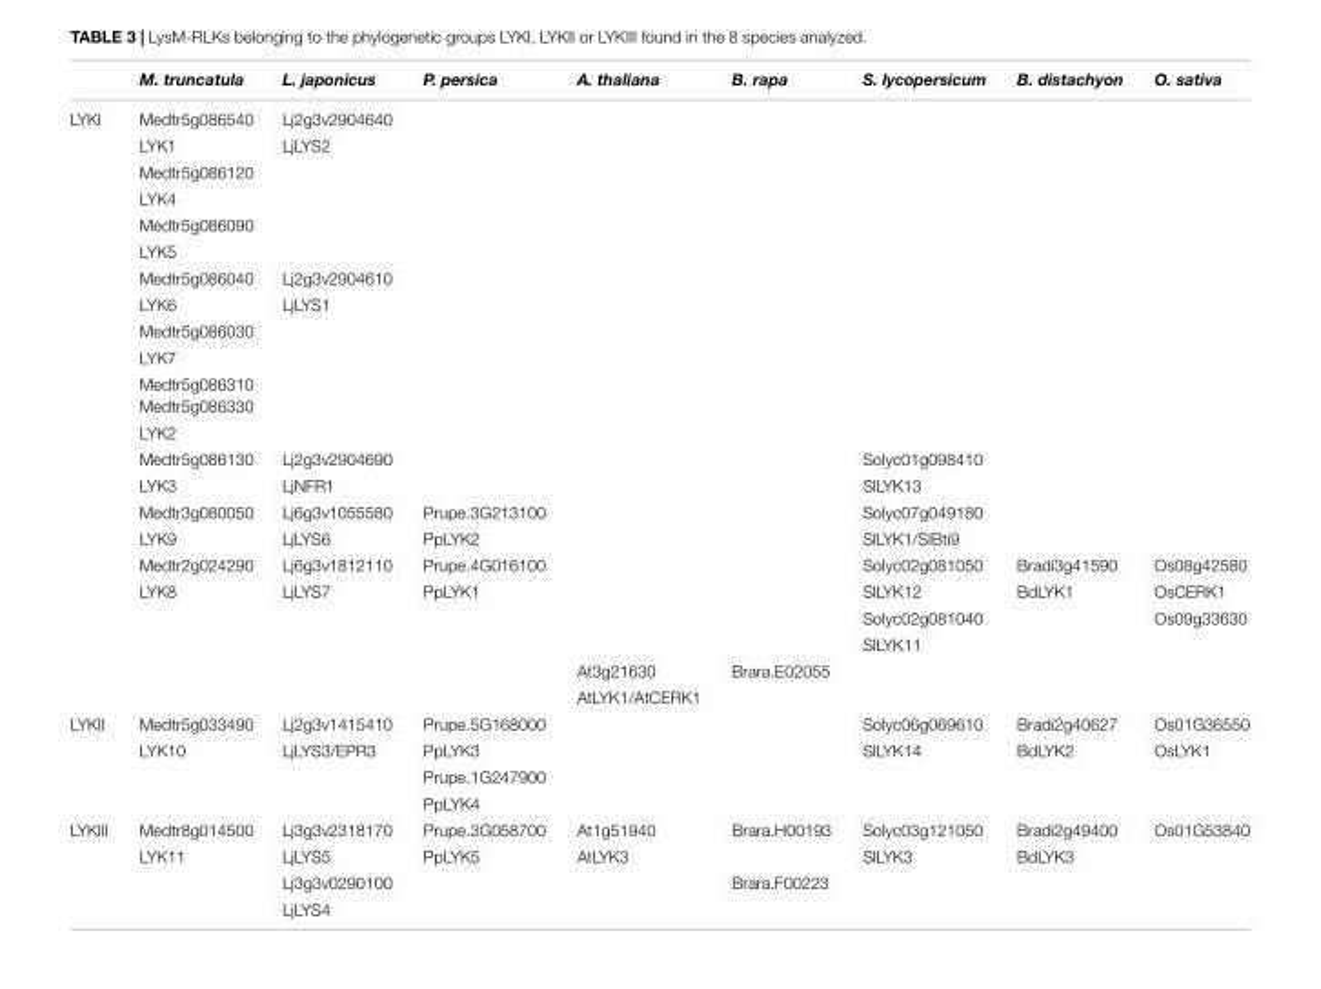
<table><thead><tr><td></td><td>M. truncatula</td><td>L. japonicus</td><td>P. persica</td><td>A. thaliana</td><td>B. rapa</td><td>S. lycopersicum</td><td>B. distachyon</td><td>O. sativa</td></tr></thead><tbody><tr><td rowspan="22">LYKI</td><td>Medtr5g086540</td><td>Lj2g3v2904640</td><td></td><td></td><td></td><td></td><td></td><td></td></tr><tr><td>LYK1</td><td>LjLYS2</td><td></td><td></td><td></td><td></td><td></td><td></td></tr><tr><td>Medtr5g086120</td><td></td><td></td><td></td><td></td><td></td><td></td><td></td></tr><tr><td>LYK4</td><td></td><td></td><td></td><td></td><td></td><td></td><td></td></tr><tr><td>Medtr5g086090</td><td></td><td></td><td></td><td></td><td></td><td></td><td></td></tr><tr><td>LYK5</td><td></td><td></td><td></td><td></td><td></td><td></td><td></td></tr><tr><td>Medtr5g086040</td><td>Lj2g3v2904610</td><td></td><td></td><td></td><td></td><td></td><td></td></tr><tr><td>LYK6</td><td>LjLYS1</td><td></td><td></td><td></td><td></td><td></td><td></td></tr><tr><td>Medtr5g086030</td><td></td><td></td><td></td><td></td><td></td><td></td><td></td></tr><tr><td>LYK7</td><td></td><td></td><td></td><td></td><td></td><td></td><td></td></tr><tr><td>Medtr5g086310 Medtr5g086330</td><td></td><td></td><td></td><td></td><td></td><td></td><td></td></tr><tr><td>LYK2</td><td></td><td></td><td></td><td></td><td></td><td></td><td></td></tr><tr><td>Medtr5g086130</td><td>Lj2g3v2904690</td><td></td><td></td><td></td><td>Solyc01g098410</td><td></td><td></td></tr><tr><td>LYK3</td><td>LjNFR1</td><td></td><td></td><td></td><td>SlLYK13</td><td></td><td></td></tr><tr><td>Medtr3g080050</td><td>Lj6g3v1055580</td><td>Prupe.3G213100</td><td></td><td></td><td>Solyc07g049180</td><td></td><td></td></tr><tr><td>LYK9</td><td>LjLYS6</td><td>PpLYK2</td><td></td><td></td><td>SlLYK1/SlBti9</td><td></td><td></td></tr><tr><td>Medtr2g024290</td><td>Lj6g3v1812110</td><td>Prupe.4G016100</td><td></td><td></td><td>Solyc02g081050</td><td>Bradi3g41590</td><td>Os08g42580</td></tr><tr><td>LYK8</td><td>LjLYS7</td><td>PpLYK1</td><td></td><td></td><td>SlLYK12</td><td>BdLYK1</td><td>OsCERK1</td></tr><tr><td></td><td></td><td></td><td></td><td></td><td>Solyc02g081040</td><td></td><td>Os09g33630</td></tr><tr><td></td><td></td><td></td><td></td><td></td><td>SlLYK11</td><td></td><td></td></tr><tr><td></td><td></td><td></td><td>At3g21630</td><td>Brara.E02055</td><td></td><td></td><td></td></tr><tr><td></td><td></td><td></td><td>AtLYK1/AtCERK1</td><td></td><td></td><td></td><td></td></tr><tr><td rowspan="4">LYKII</td><td>Medtr5g033490</td><td>Lj2g3v1415410</td><td>Prupe.5G168000</td><td></td><td></td><td>Solyc06g069610</td><td>Bradi2g40627</td><td>Os01G36550</td></tr><tr><td>LYK10</td><td>LjLYS3/EPR3</td><td>PpLYK3</td><td></td><td></td><td>SlLYK14</td><td>BdLYK2</td><td>OsLYK1</td></tr><tr><td></td><td></td><td>Prupe.1G247900</td><td></td><td></td><td></td><td></td><td></td></tr><tr><td></td><td></td><td>PpLYK4</td><td></td><td></td><td></td><td></td><td></td></tr><tr><td rowspan="4">LYKIII</td><td>Medtr8g014500</td><td>Lj3g3v2318170</td><td>Prupe.3G058700</td><td>At1g51940</td><td>Brara.H00193</td><td>Solyc03g121050</td><td>Bradi2g49400</td><td>Os01G53840</td></tr><tr><td>LYK11</td><td>LjLYS5</td><td>PpLYK5</td><td>AtLYK3</td><td></td><td>SlLYK3</td><td>BdLYK3</td><td></td></tr><tr><td></td><td>Lj3g3v0290100</td><td></td><td></td><td>Brara.F00223</td><td></td><td></td><td></td></tr><tr><td></td><td>LjLYS4</td><td></td><td></td><td></td><td></td><td></td><td></td></tr></tbody></table>